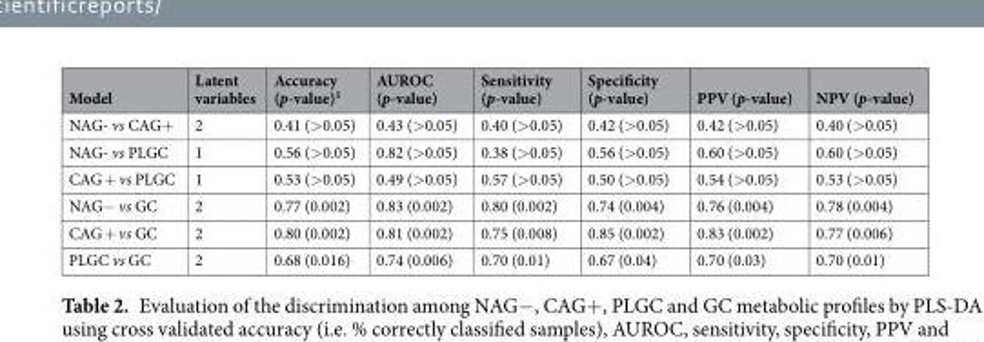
<table><thead><tr><td>Model</td><td>Latent variables</td><td>Accuracy (p-value)<sup>1</sup></td><td>AUROC (p-value)</td><td>Sensitivity (p-value)</td><td>Specificity (p-value)</td><td>PPV (p-value)</td><td>NPV (p-value)</td></tr></thead><tbody><tr><td>NAG- vs CAG+</td><td>2</td><td>0.41 (&gt;0.05)</td><td>0.43 (&gt;0.05)</td><td>0.40 (&gt;0.05)</td><td>0.42 (&gt;0.05)</td><td>0.42 (&gt;0.05)</td><td>0.40 (&gt;0.05)</td></tr><tr><td>NAG- vs PLGC</td><td>1</td><td>0.56 (&gt;0.05)</td><td>0.82 (&gt;0.05)</td><td>0.38 (&gt;0.05)</td><td>0.56 (&gt;0.05)</td><td>0.60 (&gt;0.05)</td><td>0.60 (&gt;0.05)</td></tr><tr><td>CAG + vs PLGC</td><td>1</td><td>0.53 (&gt;0.05)</td><td>0.49 (&gt;0.05)</td><td>0.57 (&gt;0.05)</td><td>0.50 (&gt;0.05)</td><td>0.54 (&gt;0.05)</td><td>0.53 (&gt;0.05)</td></tr><tr><td>NAG− vs GC</td><td>2</td><td>0.77 (0.002)</td><td>0.83 (0.002)</td><td>0.80 (0.002)</td><td>0.74 (0.004)</td><td>0.76 (0.004)</td><td>0.78 (0.004)</td></tr><tr><td>CAG + vs GC</td><td>2</td><td>0.80 (0.002)</td><td>0.81 (0.002)</td><td>0.75 (0.008)</td><td>0.85 (0.002)</td><td>0.83 (0.002)</td><td>0.77 (0.006)</td></tr><tr><td>PLGC vs GC</td><td>2</td><td>0.68 (0.016)</td><td>0.74 (0.006)</td><td>0.70 (0.01)</td><td>0.67 (0.04)</td><td>0.70 (0.03)</td><td>0.70 (0.01)</td></tr></tbody></table>